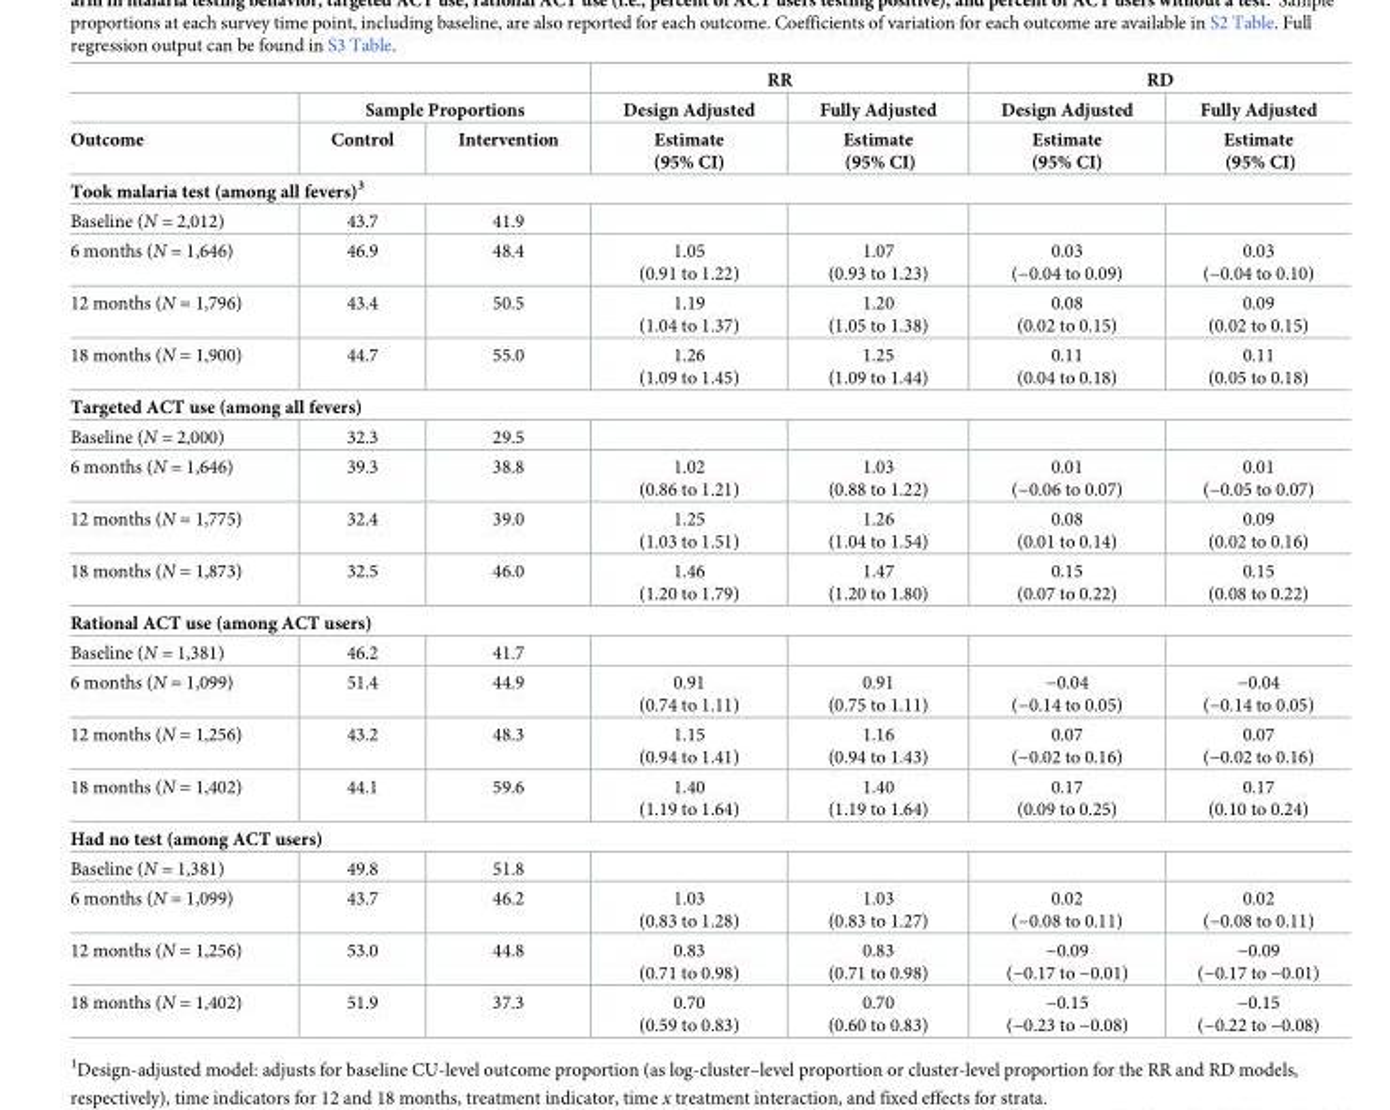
<table><thead><tr><td rowspan="3">Outcome</td><td></td><td></td><td colspan="2">RR</td><td colspan="2">RD</td></tr><tr><td colspan="2">Sample Proportions</td><td rowspan="2">Design Adjusted Estimate (95% CI)</td><td rowspan="2">Fully Adjusted Estimate (95% CI)</td><td rowspan="2">Design Adjusted Estimate (95% CI)</td><td rowspan="2">Fully Adjusted Estimate (95% CI)</td></tr><tr><td>Control</td><td>Intervention</td></tr></thead><tbody><tr><td colspan="7">Took malaria test (among all fevers)<sup>3</sup></td></tr><tr><td>Baseline (N = 2,012)</td><td>43.7</td><td>41.9</td><td></td><td></td><td></td><td></td></tr><tr><td>6 months (N = 1,646)</td><td>46.9</td><td>48.4</td><td>1.05 (0.91 to 1.22)</td><td>1.07 (0.93 to 1.23)</td><td>0.03 (−0.04 to 0.09)</td><td>0.03 (−0.04 to 0.10)</td></tr><tr><td>12 months (N = 1,796)</td><td>43.4</td><td>50.5</td><td>1.19 (1.04 to 1.37)</td><td>1.20 (1.05 to 1.38)</td><td>0.08 (0.02 to 0.15)</td><td>0.09 (0.02 to 0.15)</td></tr><tr><td>18 months (N = 1,900)</td><td>44.7</td><td>55.0</td><td>1.26 (1.09 to 1.45)</td><td>1.25 (1.09 to 1.44)</td><td>0.11 (0.04 to 0.18)</td><td>0.11 (0.05 to 0.18)</td></tr><tr><td colspan="7">Targeted ACT use (among all fevers)</td></tr><tr><td>Baseline (N = 2,000)</td><td>32.3</td><td>29.5</td><td></td><td></td><td></td><td></td></tr><tr><td>6 months (N = 1,646)</td><td>39.3</td><td>38.8</td><td>1.02 (0.86 to 1.21)</td><td>1.03 (0.88 to 1.22)</td><td>0.01 (−0.06 to 0.07)</td><td>0.01 (−0.05 to 0.07)</td></tr><tr><td>12 months (N = 1,775)</td><td>32.4</td><td>39.0</td><td>1.25 (1.03 to 1.51)</td><td>1.26 (1.04 to 1.54)</td><td>0.08 (0.01 to 0.14)</td><td>0.09 (0.02 to 0.16)</td></tr><tr><td>18 months (N = 1,873)</td><td>32.5</td><td>46.0</td><td>1.46 (1.20 to 1.79)</td><td>1.47 (1.20 to 1.80)</td><td>0.15 (0.07 to 0.22)</td><td>0.15 (0.08 to 0.22)</td></tr><tr><td colspan="7">Rational ACT use (among ACT users)</td></tr><tr><td>Baseline (N = 1,381)</td><td>46.2</td><td>41.7</td><td></td><td></td><td></td><td></td></tr><tr><td>6 months (N = 1,099)</td><td>51.4</td><td>44.9</td><td>0.91 (0.74 to 1.11)</td><td>0.91 (0.75 to 1.11)</td><td>−0.04 (−0.14 to 0.05)</td><td>−0.04 (−0.14 to 0.05)</td></tr><tr><td>12 months (N = 1,256)</td><td>43.2</td><td>48.3</td><td>1.15 (0.94 to 1.41)</td><td>1.16 (0.94 to 1.43)</td><td>0.07 (−0.02 to 0.16)</td><td>0.07 (−0.02 to 0.16)</td></tr><tr><td>18 months (N = 1,402)</td><td>44.1</td><td>59.6</td><td>1.40 (1.19 to 1.64)</td><td>1.40 (1.19 to 1.64)</td><td>0.17 (0.09 to 0.25)</td><td>0.17 (0.10 to 0.24)</td></tr><tr><td colspan="7">Had no test (among ACT users)</td></tr><tr><td>Baseline (N = 1,381)</td><td>49.8</td><td>51.8</td><td></td><td></td><td></td><td></td></tr><tr><td>6 months (N = 1,099)</td><td>43.7</td><td>46.2</td><td>1.03 (0.83 to 1.28)</td><td>1.03 (0.83 to 1.27)</td><td>0.02 (−0.08 to 0.11)</td><td>0.02 (−0.08 to 0.11)</td></tr><tr><td>12 months (N = 1,256)</td><td>53.0</td><td>44.8</td><td>0.83 (0.71 to 0.98)</td><td>0.83 (0.71 to 0.98)</td><td>−0.09 (−0.17 to −0.01)</td><td>−0.09 (−0.17 to −0.01)</td></tr><tr><td>18 months (N = 1,402)</td><td>51.9</td><td>37.3</td><td>0.70 (0.59 to 0.83)</td><td>0.70 (0.60 to 0.83)</td><td>−0.15 (−0.23 to −0.08)</td><td>−0.15 (−0.22 to −0.08)</td></tr></tbody></table>